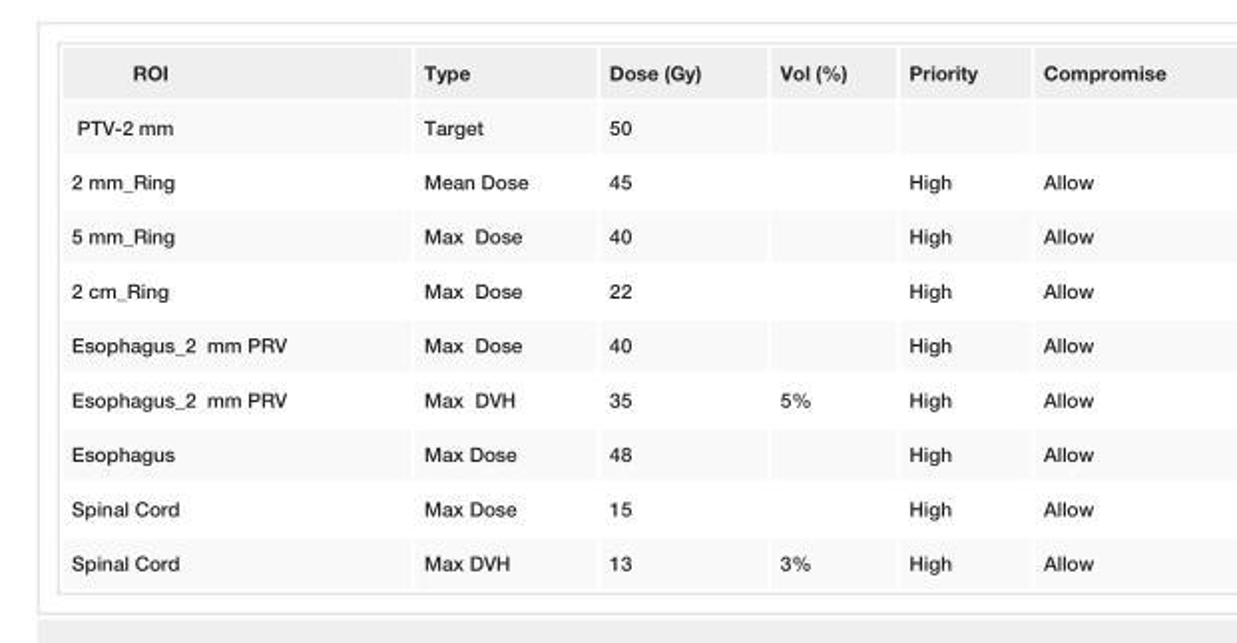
<table><tbody><tr><td>ROI</td><td>Type</td><td>Dose (Gy)</td><td>Vol (%)</td><td>Priority</td><td>Compromise</td></tr><tr><td>PTV-2 mm</td><td>Target</td><td>50</td><td></td><td></td><td></td></tr><tr><td>2 mm_Ring</td><td>Mean Dose</td><td>45</td><td></td><td>High</td><td>Allow</td></tr><tr><td>5 mm_Ring</td><td>Max Dose</td><td>40</td><td></td><td>High</td><td>Allow</td></tr><tr><td>2 cm_Ring</td><td>Max Dose</td><td>22</td><td></td><td>High</td><td>Allow</td></tr><tr><td>Esophagus_2 mm PRV</td><td>Max Dose</td><td>40</td><td></td><td>High</td><td>Allow</td></tr><tr><td>Esophagus_2 mm PRV</td><td>Max DVH</td><td>35</td><td>5%</td><td>High</td><td>Allow</td></tr><tr><td>Esophagus</td><td>Max Dose</td><td>48</td><td></td><td>High</td><td>Allow</td></tr><tr><td>Spinal Cord</td><td>Max Dose</td><td>15</td><td></td><td>High</td><td>Allow</td></tr><tr><td>Spinal Cord</td><td>Max DVH</td><td>13</td><td>3%</td><td>High</td><td>Allow</td></tr></tbody></table>